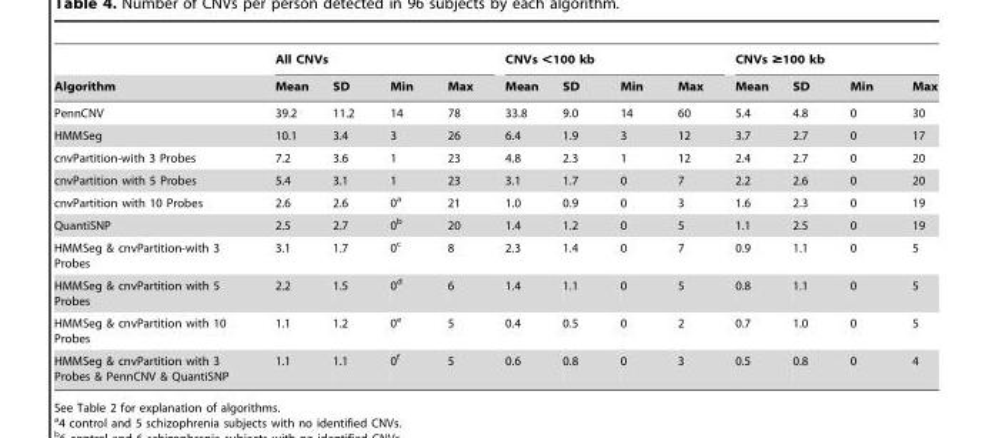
<table><thead><tr><td rowspan="2">Algorithm</td><td colspan="4">All CNVs</td><td colspan="4">CNVs &lt;100 kb</td><td colspan="4">CNVs ≥100 kb</td></tr><tr><td>Mean</td><td>SD</td><td>Min</td><td>Max</td><td>Mean</td><td>SD</td><td>Min</td><td>Max</td><td>Mean</td><td>SD</td><td>Min</td><td>Max</td></tr></thead><tbody><tr><td>PennCNV</td><td>39.2</td><td>11.2</td><td>14</td><td>78</td><td>33.8</td><td>9.0</td><td>14</td><td>60</td><td>5.4</td><td>4.8</td><td>0</td><td>30</td></tr><tr><td>HMMSeg</td><td>10.1</td><td>3.4</td><td>3</td><td>26</td><td>6.4</td><td>1.9</td><td>3</td><td>12</td><td>3.7</td><td>2.7</td><td>0</td><td>17</td></tr><tr><td>cnvPartition-with 3 Probes</td><td>7.2</td><td>3.6</td><td>1</td><td>23</td><td>4.8</td><td>2.3</td><td>1</td><td>12</td><td>2.4</td><td>2.7</td><td>0</td><td>20</td></tr><tr><td>cnvPartition with 5 Probes</td><td>5.4</td><td>3.1</td><td>1</td><td>23</td><td>3.1</td><td>1.7</td><td>0</td><td>7</td><td>2.2</td><td>2.6</td><td>0</td><td>20</td></tr><tr><td>cnvPartition with 10 Probes</td><td>2.6</td><td>2.6</td><td>0<sup>a</sup></td><td>21</td><td>1.0</td><td>0.9</td><td>0</td><td>3</td><td>1.6</td><td>2.3</td><td>0</td><td>19</td></tr><tr><td>QuantiSNP</td><td>2.5</td><td>2.7</td><td>0<sup>b</sup></td><td>20</td><td>1.4</td><td>1.2</td><td>0</td><td>5</td><td>1.1</td><td>2.5</td><td>0</td><td>19</td></tr><tr><td>HMMSeg &amp; cnvPartition-with 3 Probes</td><td>3.1</td><td>1.7</td><td>0<sup>c</sup></td><td>8</td><td>2.3</td><td>1.4</td><td>0</td><td>7</td><td>0.9</td><td>1.1</td><td>0</td><td>5</td></tr><tr><td>HMMSeg &amp; cnvPartition with 5 Probes</td><td>2.2</td><td>1.5</td><td>0<sup>d</sup></td><td>6</td><td>1.4</td><td>1.1</td><td>0</td><td>5</td><td>0.8</td><td>1.1</td><td>0</td><td>5</td></tr><tr><td>HMMSeg &amp; cnvPartition with 10 Probes</td><td>1.1</td><td>1.2</td><td>0<sup>e</sup></td><td>5</td><td>0.4</td><td>0.5</td><td>0</td><td>2</td><td>0.7</td><td>1.0</td><td>0</td><td>5</td></tr><tr><td>HMMSeg &amp; cnvPartition with 3 Probes &amp; PennCNV &amp; QuantiSNP</td><td>1.1</td><td>1.1</td><td>0<sup>f</sup></td><td>5</td><td>0.6</td><td>0.8</td><td>0</td><td>3</td><td>0.5</td><td>0.8</td><td>0</td><td>4</td></tr></tbody></table>